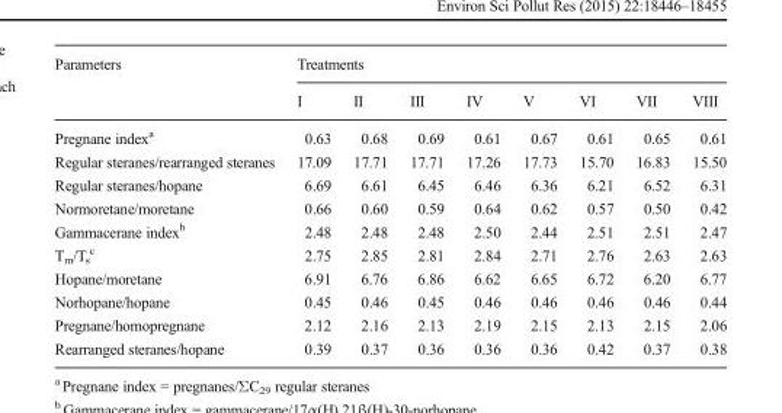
<table><thead><tr><td rowspan="2">Parameters</td><td colspan="8">Treatments</td></tr><tr><td>I</td><td>II</td><td>III</td><td>IV</td><td>V</td><td>VI</td><td>VII</td><td>VIII</td></tr></thead><tbody><tr><td>Pregnane index<sup>a</sup></td><td>0.63</td><td>0.68</td><td>0.69</td><td>0.61</td><td>0.67</td><td>0.61</td><td>0.65</td><td>0.61</td></tr><tr><td>Regular steranes/rearranged steranes</td><td>17.09</td><td>17.71</td><td>17.71</td><td>17.26</td><td>17.73</td><td>15.70</td><td>16.83</td><td>15.50</td></tr><tr><td>Regular steranes/hopane</td><td>6.69</td><td>6.61</td><td>6.45</td><td>6.46</td><td>6.36</td><td>6.21</td><td>6.52</td><td>6.31</td></tr><tr><td>Normoretane/moretane</td><td>0.66</td><td>0.60</td><td>0.59</td><td>0.64</td><td>0.62</td><td>0.57</td><td>0.50</td><td>0.42</td></tr><tr><td>Gammacerane index<sup>b</sup></td><td>2.48</td><td>2.48</td><td>2.48</td><td>2.50</td><td>2.44</td><td>2.51</td><td>2.51</td><td>2.47</td></tr><tr><td>T<sub>m</sub>/T<sub>s</sub> <sup>c</sup></td><td>2.75</td><td>2.85</td><td>2.81</td><td>2.84</td><td>2.71</td><td>2.76</td><td>2.63</td><td>2.63</td></tr><tr><td>Hopane/moretane</td><td>6.91</td><td>6.76</td><td>6.86</td><td>6.62</td><td>6.65</td><td>6.72</td><td>6.20</td><td>6.77</td></tr><tr><td>Norhopane/hopane</td><td>0.45</td><td>0.46</td><td>0.45</td><td>0.46</td><td>0.46</td><td>0.46</td><td>0.46</td><td>0.44</td></tr><tr><td>Pregnane/homopregnane</td><td>2.12</td><td>2.16</td><td>2.13</td><td>2.19</td><td>2.15</td><td>2.13</td><td>2.15</td><td>2.06</td></tr><tr><td>Rearranged steranes/hopane</td><td>0.39</td><td>0.37</td><td>0.36</td><td>0.36</td><td>0.36</td><td>0.42</td><td>0.37</td><td>0.38</td></tr></tbody></table>